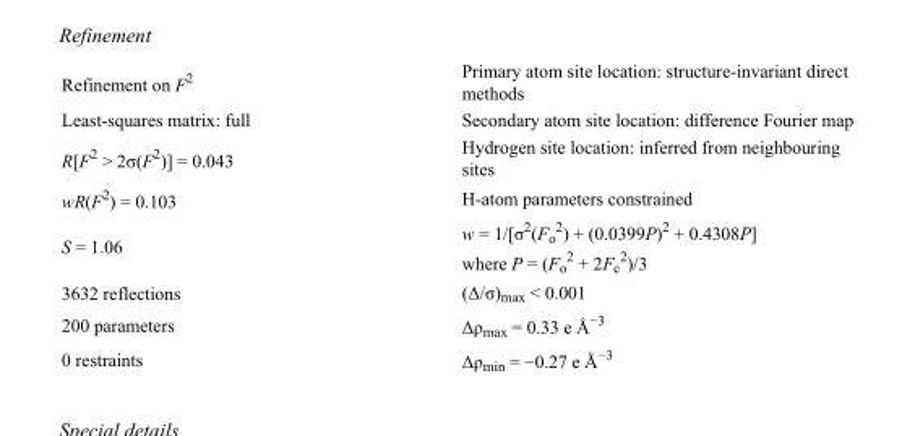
<table><tbody><tr><td>Refinement on F<sup>2</sup></td><td>Primary atom site location: structure-invariant direct methods</td></tr><tr><td>Least-squares matrix: full</td><td>Secondary atom site location: difference Fourier map</td></tr><tr><td>R[F<sup>2</sup> &gt; 2σ(F<sup>2</sup>)] = 0.043</td><td>Hydrogen site location: inferred from neighbouring sites</td></tr><tr><td>wR(F<sup>2</sup>) = 0.103</td><td>H-atom parameters constrained</td></tr><tr><td>S = 1.06</td><td>w = 1/[σ<sup>2</sup>(F<sub>o</sub> <sup>2</sup>) + (0.0399P)<sup>2</sup> + 0.4308P] where P = (F<sub>o</sub> <sup>2</sup> + 2F<sub>c</sub> <sup>2</sup>)/3</td></tr><tr><td>3632 reflections</td><td>(Δ/σ)<sub>max</sub> &lt; 0.001</td></tr><tr><td>200 parameters</td><td>Δρ<sub>max</sub> = 0.33 e Å<sup>−3</sup></td></tr><tr><td>0 restraints</td><td>Δρ<sub>min</sub> = −0.27 e Å<sup>−3</sup></td></tr></tbody></table>